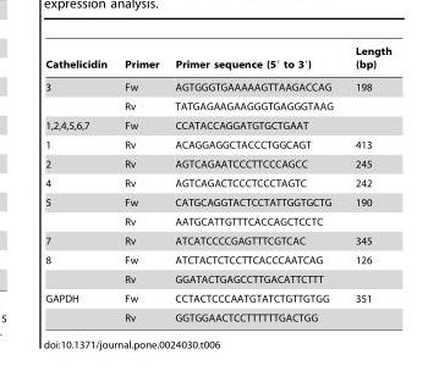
<table><thead><tr><td>Cathelicidin</td><td>Primer</td><td>Primer sequence (5′ to 3′)</td><td>Length (bp)</td></tr></thead><tbody><tr><td rowspan="2">3</td><td>Fw</td><td>AGTGGGTGAAAAAGTTAAGACCAG</td><td>198</td></tr><tr><td>Rv</td><td>TATGAGAAGAAGGGTGAGGGTAAG</td><td></td></tr><tr><td>1,2,4,5,6,7</td><td>Fw</td><td>CCATACCAGGATGTGCTGAAT</td><td></td></tr><tr><td>1</td><td>Rv</td><td>ACAGGAGGCTACCCTGGCAGT</td><td>413</td></tr><tr><td>2</td><td>Rv</td><td>AGTCAGAATCCCTTCCCAGCC</td><td>245</td></tr><tr><td>4</td><td>Rv</td><td>AGTCAGACTCCCTCCCTAGTC</td><td>242</td></tr><tr><td rowspan="2">5</td><td>Fw</td><td>CATGCAGGTACTCCTATTGGTGCTG</td><td>190</td></tr><tr><td>Rv</td><td>AATGCATTGTTTCACCAGCTCCTC</td><td></td></tr><tr><td>7</td><td>Rv</td><td>ATCATCCCCGAGTTTCGTCAC</td><td>345</td></tr><tr><td rowspan="2">8</td><td>Fw</td><td>ATCTACTCTCCTTCACCCAATCAG</td><td>126</td></tr><tr><td>Rv</td><td>GGATACTGAGCCTTGACATTCTTT</td><td></td></tr><tr><td rowspan="2">GAPDH</td><td>Fw</td><td>CCTACTCCCAATGTATCTGTTGTGG</td><td>351</td></tr><tr><td>Rv</td><td>GGTGGAACTCCTTTTTTGACTGG</td><td></td></tr></tbody></table>